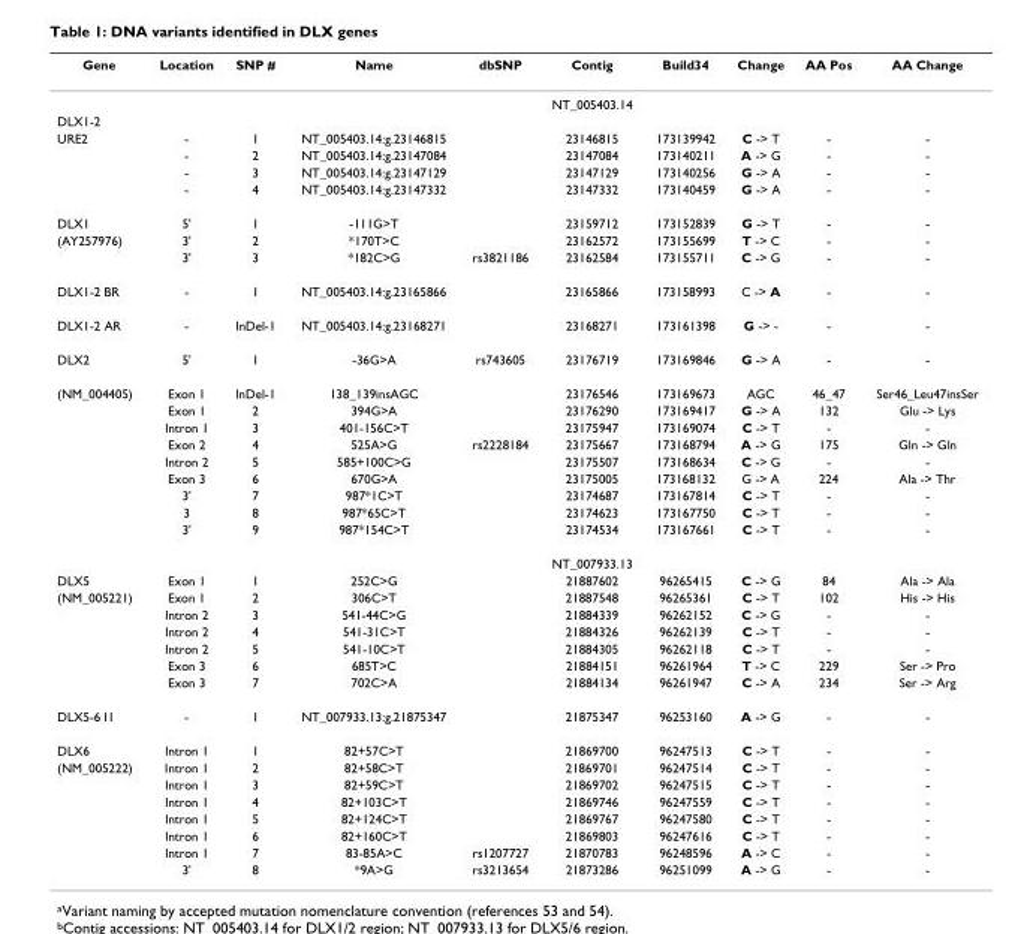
<table><thead><tr><td>Gene</td><td>Location</td><td>SNP #</td><td>Name</td><td>dbSNP</td><td>Contig</td><td>Build34</td><td>Change</td><td>AA Pos</td><td>AA Change</td></tr></thead><tbody><tr><td></td><td></td><td></td><td></td><td></td><td>NT_005403.14</td><td></td><td></td><td></td><td></td></tr><tr><td colspan="10">DLX1-2</td></tr><tr><td rowspan="4">URE2</td><td>-</td><td>1</td><td>NT_005403.14:g.23146815</td><td></td><td>23146815</td><td>173139942</td><td>C -&gt; T</td><td>-</td><td>-</td></tr><tr><td>-</td><td>2</td><td>NT_005403.14:g.23147084</td><td></td><td>23147084</td><td>173140211</td><td>A -&gt; G</td><td>-</td><td>-</td></tr><tr><td>-</td><td>3</td><td>NT_005403.14:g.23147129</td><td></td><td>23147129</td><td>173140256</td><td>G -&gt; A</td><td>-</td><td>-</td></tr><tr><td>-</td><td>4</td><td>NT_005403.14:g.23147332</td><td></td><td>23147332</td><td>173140459</td><td>G -&gt; A</td><td>-</td><td>-</td></tr><tr><td>DLX1</td><td>5&#x27;</td><td>1</td><td>-111G&gt;T</td><td></td><td>23159712</td><td>173152839</td><td>G -&gt; T</td><td>-</td><td>-</td></tr><tr><td rowspan="2">(AY257976)</td><td>3&#x27;</td><td>2</td><td>*170T&gt;C</td><td></td><td>23162572</td><td>173155699</td><td>T -&gt; C</td><td>-</td><td>-</td></tr><tr><td>3&#x27;</td><td>3</td><td>*182C&gt;G</td><td>rs3821186</td><td>23162584</td><td>173155711</td><td>C -&gt; G</td><td>-</td><td>-</td></tr><tr><td>DLX1-2 BR</td><td>-</td><td>1</td><td>NT_005403.14:g.23165866</td><td></td><td>23165866</td><td>173158993</td><td>C -&gt; A</td><td>-</td><td>-</td></tr><tr><td>DLX1-2 AR</td><td>-</td><td>InDel-1</td><td>NT_005403.14:g.23168271</td><td></td><td>23168271</td><td>173161398</td><td>G -&gt; -</td><td>-</td><td>-</td></tr><tr><td>DLX2</td><td>5&#x27;</td><td>1</td><td>-36G&gt;A</td><td>rs743605</td><td>23176719</td><td>173169846</td><td>G -&gt; A</td><td>-</td><td>-</td></tr><tr><td rowspan="10">(NM_004405)</td><td>Exon 1</td><td>InDel-1</td><td>138_139insAGC</td><td></td><td>23176546</td><td>173169673</td><td>AGC</td><td>46_47</td><td>Ser46_Leu47insSer</td></tr><tr><td>Exon 1</td><td>2</td><td>394G&gt;A</td><td></td><td>23176290</td><td>173169417</td><td>G -&gt; A</td><td>132</td><td>Glu -&gt; Lys</td></tr><tr><td>Intron 1</td><td>3</td><td>401-156C&gt;T</td><td></td><td>23175947</td><td>173169074</td><td>C -&gt; T</td><td>-</td><td>-</td></tr><tr><td>Exon 2</td><td>4</td><td>525A&gt;G</td><td>rs2228184</td><td>23175667</td><td>173168794</td><td>A -&gt; G</td><td>175</td><td>Gln -&gt; Gln</td></tr><tr><td>Intron 2</td><td>5</td><td>585+100C&gt;G</td><td></td><td>23175507</td><td>173168634</td><td>C -&gt; G</td><td>-</td><td>-</td></tr><tr><td>Exon 3</td><td>6</td><td>670G&gt;A</td><td></td><td>23175005</td><td>173168132</td><td>G -&gt; A</td><td>224</td><td>Ala -&gt; Thr</td></tr><tr><td>3&#x27;</td><td>7</td><td>987*1C&gt;T</td><td></td><td>23174687</td><td>173167814</td><td>C -&gt; T</td><td>-</td><td>-</td></tr><tr><td>3</td><td>8</td><td>987*65C&gt;T</td><td></td><td>23174623</td><td>173167750</td><td>C -&gt; T</td><td>-</td><td>-</td></tr><tr><td>3&#x27;</td><td>9</td><td>987*154C&gt;T</td><td></td><td>23174534</td><td>173167661</td><td>C -&gt; T</td><td>-</td><td>-</td></tr><tr><td></td><td></td><td></td><td></td><td>NT_007933.13</td><td></td><td></td><td></td><td></td></tr><tr><td>DLX5</td><td>Exon 1</td><td>1</td><td>252C&gt;G</td><td></td><td>21887602</td><td>96265415</td><td>C -&gt; G</td><td>84</td><td>Ala -&gt; Ala</td></tr><tr><td rowspan="6">(NM_005221)</td><td>Exon 1</td><td>2</td><td>306C&gt;T</td><td></td><td>21887548</td><td>96265361</td><td>C -&gt; T</td><td>102</td><td>His -&gt; His</td></tr><tr><td>Intron 2</td><td>3</td><td>541-44C&gt;G</td><td></td><td>21884339</td><td>96262152</td><td>C -&gt; G</td><td>-</td><td>-</td></tr><tr><td>Intron 2</td><td>4</td><td>541-31C&gt;T</td><td></td><td>21884326</td><td>96262139</td><td>C -&gt; T</td><td>-</td><td>-</td></tr><tr><td>Intron 2</td><td>5</td><td>541-10C&gt;T</td><td></td><td>21884305</td><td>96262118</td><td>C -&gt; T</td><td>-</td><td>-</td></tr><tr><td>Exon 3</td><td>6</td><td>685T&gt;C</td><td></td><td>21884151</td><td>96261964</td><td>T -&gt; C</td><td>229</td><td>Ser -&gt; Pro</td></tr><tr><td>Exon 3</td><td>7</td><td>702C&gt;A</td><td></td><td>21884134</td><td>96261947</td><td>C -&gt; A</td><td>234</td><td>Ser -&gt; Arg</td></tr><tr><td>DLX5-6 I1</td><td>-</td><td>1</td><td>NT_007933.13:g.21875347</td><td></td><td>21875347</td><td>96253160</td><td>A -&gt; G</td><td>-</td><td>-</td></tr><tr><td>DLX6</td><td>Intron 1</td><td>1</td><td>82+57C&gt;T</td><td></td><td>21869700</td><td>96247513</td><td>C -&gt; T</td><td>-</td><td>-</td></tr><tr><td rowspan="7">(NM_005222)</td><td>Intron 1</td><td>2</td><td>82+58C&gt;T</td><td></td><td>21869701</td><td>96247514</td><td>C -&gt; T</td><td>-</td><td>-</td></tr><tr><td>Intron 1</td><td>3</td><td>82+59C&gt;T</td><td></td><td>21869702</td><td>96247515</td><td>C -&gt; T</td><td>-</td><td>-</td></tr><tr><td>Intron 1</td><td>4</td><td>82+103C&gt;T</td><td></td><td>21869746</td><td>96247559</td><td>C -&gt; T</td><td>-</td><td>-</td></tr><tr><td>Intron 1</td><td>5</td><td>82+124C&gt;T</td><td></td><td>21869767</td><td>96247580</td><td>C -&gt; T</td><td>-</td><td>-</td></tr><tr><td>Intron 1</td><td>6</td><td>82+160C&gt;T</td><td></td><td>21869803</td><td>96247616</td><td>C -&gt; T</td><td>-</td><td>-</td></tr><tr><td>Intron 1</td><td>7</td><td>83-85A&gt;C</td><td>rs1207727</td><td>21870783</td><td>96248596</td><td>A -&gt; C</td><td>-</td><td>-</td></tr><tr><td>3&#x27;</td><td>8</td><td>*9A&gt;G</td><td>rs3213654</td><td>21873286</td><td>96251099</td><td>A -&gt; G</td><td>-</td><td>-</td></tr></tbody></table>